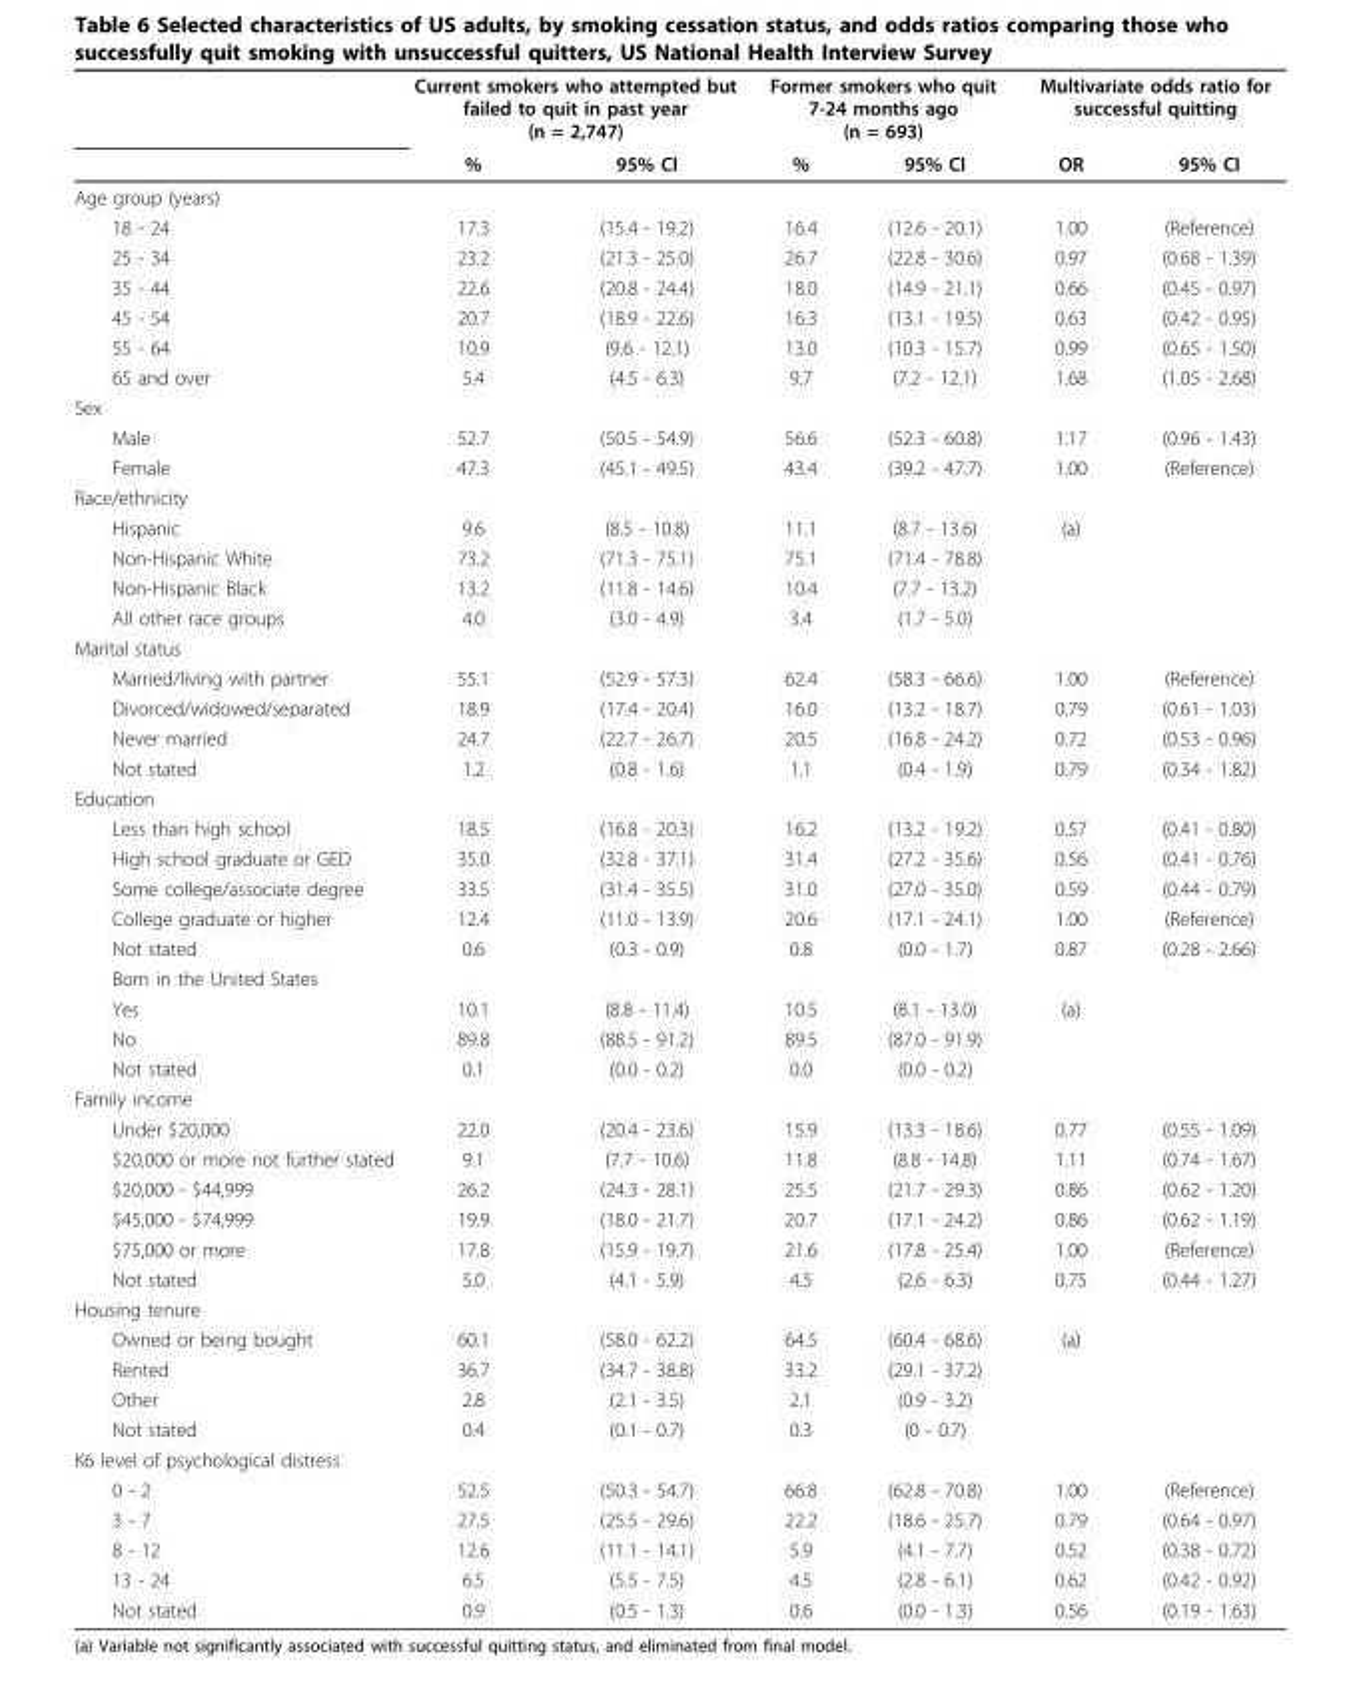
<table><thead><tr><td rowspan="2"></td><td colspan="2">Current smokers who attempted but failed to quit in past year (n = 2,747)</td><td colspan="2">Former smokers who quit 7-24 months ago (n = 693)</td><td colspan="2">Multivariate odds ratio for successful quitting</td></tr><tr><td>%</td><td>95% CI</td><td>%</td><td>95% CI</td><td>OR</td><td>95% CI</td></tr></thead><tbody><tr><td colspan="7">Age group (years)</td></tr><tr><td>18 - 24</td><td>17.3</td><td>(15.4 - 19.2)</td><td>16.4</td><td>(12.6 - 20.1)</td><td>1.00</td><td>(Reference)</td></tr><tr><td>25 - 34</td><td>23.2</td><td>(21.3 - 25.0)</td><td>26.7</td><td>(22.8 - 30.6)</td><td>0.97</td><td>(0.68 - 1.39)</td></tr><tr><td>35 - 44</td><td>22.6</td><td>(20.8 - 24.4)</td><td>18.0</td><td>(14.9 - 21.1)</td><td>0.66</td><td>(0.45 - 0.97)</td></tr><tr><td>45 - 54</td><td>20.7</td><td>(18.9 - 22.6)</td><td>16.3</td><td>(13.1 - 19.5)</td><td>0.63</td><td>(0.42 - 0.95)</td></tr><tr><td>55 - 64</td><td>10.9</td><td>(9.6 - 12.1)</td><td>13.0</td><td>(10.3 - 15.7)</td><td>0.99</td><td>(0.65 - 1.50)</td></tr><tr><td>65 and over</td><td>5.4</td><td>(4.5 - 6.3)</td><td>9.7</td><td>(7.2 - 12.1)</td><td>1.68</td><td>(1.05 - 2.68)</td></tr><tr><td colspan="7">Sex</td></tr><tr><td>Male</td><td>52.7</td><td>(50.5 - 54.9)</td><td>56.6</td><td>(52.3 - 60.8)</td><td>1.17</td><td>(0.96 - 1.43)</td></tr><tr><td>Female</td><td>47.3</td><td>(45.1 - 49.5)</td><td>43.4</td><td>(39.2 - 47.7)</td><td>1.00</td><td>(Reference)</td></tr><tr><td colspan="7">Race/ethnicity</td></tr><tr><td>Hispanic</td><td>9.6</td><td>(8.5 - 10.8)</td><td>11.1</td><td>(8.7 - 13.6)</td><td>(a)</td><td></td></tr><tr><td>Non-Hispanic White</td><td>73.2</td><td>(71.3 - 75.1)</td><td>75.1</td><td>(71.4 - 78.8)</td><td></td><td></td></tr><tr><td>Non-Hispanic Black</td><td>13.2</td><td>(11.8 - 14.6)</td><td>10.4</td><td>(7.7 - 13.2)</td><td></td><td></td></tr><tr><td>All other race groups</td><td>4.0</td><td>(3.0 - 4.9)</td><td>3.4</td><td>(1.7 - 5.0)</td><td></td><td></td></tr><tr><td colspan="7">Marital status</td></tr><tr><td>Married/living with partner</td><td>55.1</td><td>(52.9 - 57.3)</td><td>62.4</td><td>(58.3 - 66.6)</td><td>1.00</td><td>(Reference)</td></tr><tr><td>Divorced/widowed/separated</td><td>18.9</td><td>(17.4 - 20.4)</td><td>16.0</td><td>(13.2 - 18.7)</td><td>0.79</td><td>(0.61 - 1.03)</td></tr><tr><td>Never married</td><td>24.7</td><td>(22.7 - 26.7)</td><td>20.5</td><td>(16.8 - 24.2)</td><td>0.72</td><td>(0.53 - 0.96)</td></tr><tr><td>Not stated</td><td>1.2</td><td>(0.8 - 1.6)</td><td>1.1</td><td>(0.4 - 1.9)</td><td>0.79</td><td>(0.34 - 1.82)</td></tr><tr><td colspan="7">Education</td></tr><tr><td>Less than high school</td><td>18.5</td><td>(16.8 - 20.3)</td><td>16.2</td><td>(13.2 - 19.2)</td><td>0.57</td><td>(0.41 - 0.80)</td></tr><tr><td>High school graduate or GED</td><td>35.0</td><td>(32.8 - 37.1)</td><td>31.4</td><td>(27.2 - 35.6)</td><td>0.56</td><td>(0.41 - 0.76)</td></tr><tr><td>Some college/associate degree</td><td>33.5</td><td>(31.4 - 35.5)</td><td>31.0</td><td>(27.0 - 35.0)</td><td>0.59</td><td>(0.44 - 0.79)</td></tr><tr><td>College graduate or higher</td><td>12.4</td><td>(11.0 - 13.9)</td><td>20.6</td><td>(17.1 - 24.1)</td><td>1.00</td><td>(Reference)</td></tr><tr><td>Not stated</td><td>0.6</td><td>(0.3 - 0.9)</td><td>0.8</td><td>(0.0 - 1.7)</td><td>0.87</td><td>(0.28 - 2.66)</td></tr><tr><td colspan="7">Born in the United States</td></tr><tr><td>Yes</td><td>10.1</td><td>(8.8 - 11.4)</td><td>10.5</td><td>(8.1 - 13.0)</td><td>(a)</td><td></td></tr><tr><td>No</td><td>89.8</td><td>(88.5 - 91.2)</td><td>89.5</td><td>(87.0 - 91.9)</td><td></td><td></td></tr><tr><td>Not stated</td><td>0.1</td><td>(0.0 - 0.2)</td><td>0.0</td><td>(0.0 - 0.2)</td><td></td><td></td></tr><tr><td colspan="7">Family income</td></tr><tr><td>Under $20,000</td><td>22.0</td><td>(20.4 - 23.6)</td><td>15.9</td><td>(13.3 - 18.6)</td><td>0.77</td><td>(0.55 - 1.09)</td></tr><tr><td>$20,000 or more not further stated</td><td>9.1</td><td>(7.7 - 10.6)</td><td>11.8</td><td>(8.8 - 14.8)</td><td>1.11</td><td>(0.74 - 1.67)</td></tr><tr><td>$20,000 - $44,999</td><td>26.2</td><td>(24.3 - 28.1)</td><td>25.5</td><td>(21.7 - 29.3)</td><td>0.86</td><td>(0.62 - 1.20)</td></tr><tr><td>$45,000 - $74,999</td><td>19.9</td><td>(18.0 - 21.7)</td><td>20.7</td><td>(17.1 - 24.2)</td><td>0.86</td><td>(0.62 - 1.19)</td></tr><tr><td>$75,000 or more</td><td>17.8</td><td>(15.9 - 19.7)</td><td>21.6</td><td>(17.8 - 25.4)</td><td>1.00</td><td>(Reference)</td></tr><tr><td>Not stated</td><td>5.0</td><td>(4.1 - 5.9)</td><td>4.5</td><td>(2.6 - 6.3)</td><td>0.75</td><td>(0.44 - 1.27)</td></tr><tr><td colspan="7">Housing tenure</td></tr><tr><td>Owned or being bought</td><td>60.1</td><td>(58.0 - 62.2)</td><td>64.5</td><td>(60.4 - 68.6)</td><td>(a)</td><td></td></tr><tr><td>Rented</td><td>36.7</td><td>(34.7 - 38.8)</td><td>33.2</td><td>(29.1 - 37.2)</td><td></td><td></td></tr><tr><td>Other</td><td>2.8</td><td>(2.1 - 3.5)</td><td>2.1</td><td>(0.9 - 3.2)</td><td></td><td></td></tr><tr><td>Not stated</td><td>0.4</td><td>(0.1 - 0.7)</td><td>0.3</td><td>(0 - 0.7)</td><td></td><td></td></tr><tr><td colspan="7">K6 level of psychological distress</td></tr><tr><td>0 - 2</td><td>52.5</td><td>(50.3 - 54.7)</td><td>66.8</td><td>(62.8 - 70.8)</td><td>1.00</td><td>(Reference)</td></tr><tr><td>3 - 7</td><td>27.5</td><td>(25.5 - 29.6)</td><td>22.2</td><td>(18.6 - 25.7)</td><td>0.79</td><td>(0.64 - 0.97)</td></tr><tr><td>8 - 12</td><td>12.6</td><td>(11.1 - 14.1)</td><td>5.9</td><td>(4.1 - 7.7)</td><td>0.52</td><td>(0.38 - 0.72)</td></tr><tr><td>13 - 24</td><td>6.5</td><td>(5.5 - 7.5)</td><td>4.5</td><td>(2.8 - 6.1)</td><td>0.62</td><td>(0.42 - 0.92)</td></tr><tr><td>Not stated</td><td>0.9</td><td>(0.5 - 1.3)</td><td>0.6</td><td>(0.0 - 1.3)</td><td>0.56</td><td>(0.19 - 1.63)</td></tr></tbody></table>